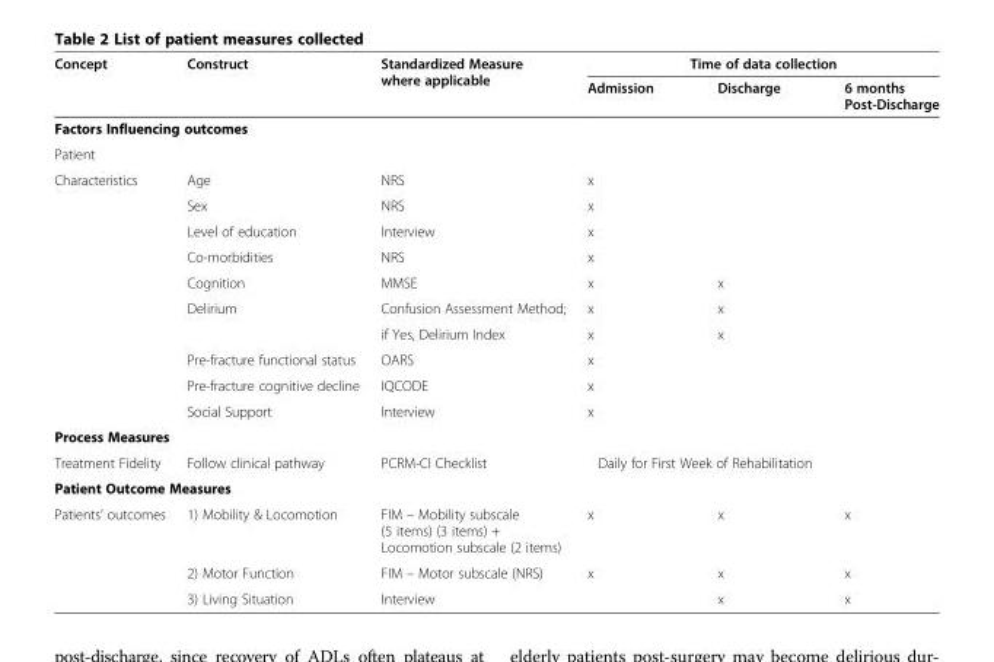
<table><thead><tr><td rowspan="2">Concept</td><td rowspan="2">Construct</td><td rowspan="2">Standardized Measure where applicable</td><td colspan="3">Time of data collection</td></tr><tr><td>Admission</td><td>Discharge</td><td>6 months Post-Discharge</td></tr></thead><tbody><tr><td colspan="6">Factors Influencing outcomes</td></tr><tr><td colspan="6">Patient</td></tr><tr><td rowspan="10">Characteristics</td><td>Age</td><td>NRS</td><td>x</td><td></td><td></td></tr><tr><td>Sex</td><td>NRS</td><td>x</td><td></td><td></td></tr><tr><td>Level of education</td><td>Interview</td><td>x</td><td></td><td></td></tr><tr><td>Co-morbidities</td><td>NRS</td><td>x</td><td></td><td></td></tr><tr><td>Cognition</td><td>MMSE</td><td>x</td><td>x</td><td></td></tr><tr><td rowspan="2">Delirium</td><td>Confusion Assessment Method;</td><td>x</td><td>x</td><td></td></tr><tr><td>if Yes, Delirium Index</td><td>x</td><td>x</td><td></td></tr><tr><td>Pre-fracture functional status</td><td>OARS</td><td>x</td><td></td><td></td></tr><tr><td>Pre-fracture cognitive decline</td><td>IQCODE</td><td>x</td><td></td><td></td></tr><tr><td>Social Support</td><td>Interview</td><td>x</td><td></td><td></td></tr><tr><td colspan="6">Process Measures</td></tr><tr><td>Treatment Fidelity</td><td>Follow clinical pathway</td><td>PCRM-CI Checklist</td><td colspan="2">Daily for First Week of Rehabilitation</td><td></td></tr><tr><td colspan="6">Patient Outcome Measures</td></tr><tr><td rowspan="3">Patients’ outcomes</td><td>1) Mobility &amp; Locomotion</td><td>FIM – Mobility subscale (5 items) (3 items) + Locomotion subscale (2 items)</td><td>x</td><td>x</td><td>x</td></tr><tr><td>2) Motor Function</td><td>FIM – Motor subscale (NRS)</td><td>x</td><td>x</td><td>x</td></tr><tr><td>3) Living Situation</td><td>Interview</td><td></td><td>x</td><td>x</td></tr></tbody></table>